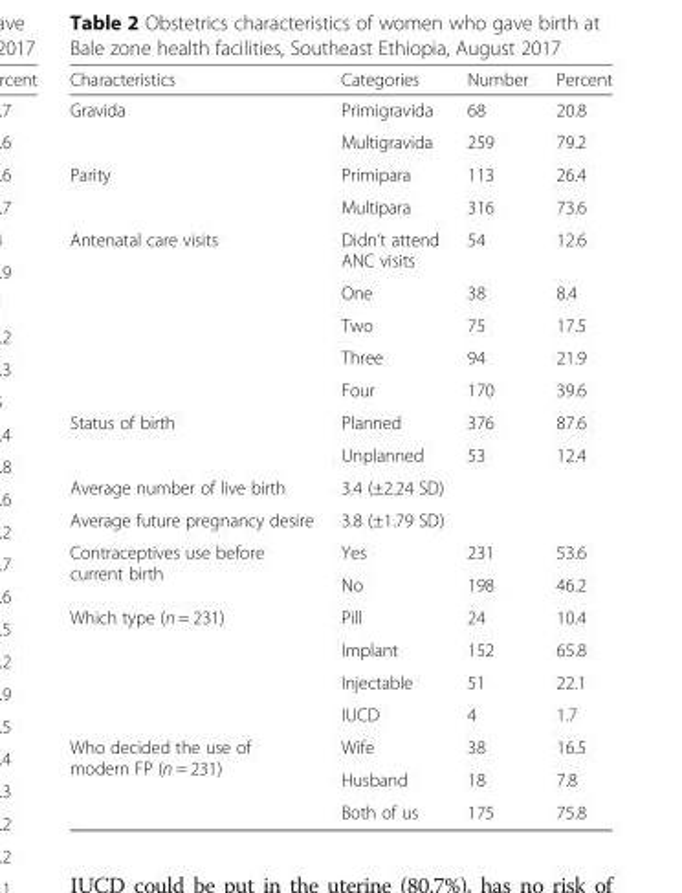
<table><thead><tr><td>Characteristics</td><td>Categories</td><td>Number</td><td>Percent</td></tr></thead><tbody><tr><td rowspan="2">Gravida</td><td>Primigravida</td><td>68</td><td>20.8</td></tr><tr><td>Multigravida</td><td>259</td><td>79.2</td></tr><tr><td rowspan="2">Parity</td><td>Primipara</td><td>113</td><td>26.4</td></tr><tr><td>Multipara</td><td>316</td><td>73.6</td></tr><tr><td rowspan="5">Antenatal care visits</td><td>Didn’t attend ANC visits</td><td>54</td><td>12.6</td></tr><tr><td>One</td><td>38</td><td>8.4</td></tr><tr><td>Two</td><td>75</td><td>17.5</td></tr><tr><td>Three</td><td>94</td><td>21.9</td></tr><tr><td>Four</td><td>170</td><td>39.6</td></tr><tr><td rowspan="2">Status of birth</td><td>Planned</td><td>376</td><td>87.6</td></tr><tr><td>Unplanned</td><td>53</td><td>12.4</td></tr><tr><td>Average number of live birth</td><td colspan="3">3.4 (±2.24 SD)</td></tr><tr><td>Average future pregnancy desire</td><td colspan="3">3.8 (±1.79 SD)</td></tr><tr><td rowspan="2">Contraceptives use before current birth</td><td>Yes</td><td>231</td><td>53.6</td></tr><tr><td>No</td><td>198</td><td>46.2</td></tr><tr><td rowspan="4">Which type (n = 231)</td><td>Pill</td><td>24</td><td>10.4</td></tr><tr><td>Implant</td><td>152</td><td>65.8</td></tr><tr><td>Injectable</td><td>51</td><td>22.1</td></tr><tr><td>IUCD</td><td>4</td><td>1.7</td></tr><tr><td rowspan="3">Who decided the use of modern FP (n = 231)</td><td>Wife</td><td>38</td><td>16.5</td></tr><tr><td>Husband</td><td>18</td><td>7.8</td></tr><tr><td>Both of us</td><td>175</td><td>75.8</td></tr></tbody></table>